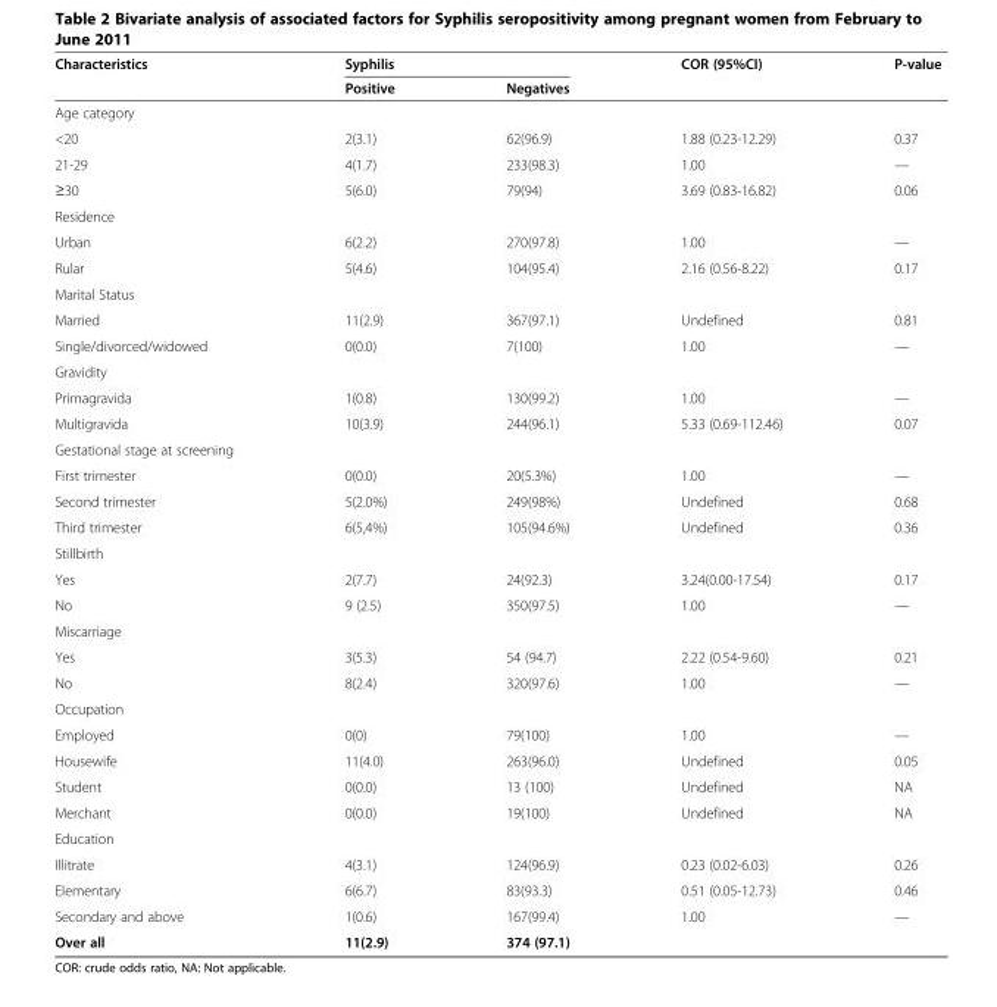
<table><thead><tr><td rowspan="2">Characteristics</td><td colspan="2">Syphilis</td><td rowspan="2">COR (95%CI)</td><td rowspan="2">P-value</td></tr><tr><td>Positive</td><td>Negatives</td></tr></thead><tbody><tr><td colspan="5">Age category</td></tr><tr><td>&lt;20</td><td>2(3.1)</td><td>62(96.9)</td><td>1.88 (0.23-12.29)</td><td>0.37</td></tr><tr><td>21-29</td><td>4(1.7)</td><td>233(98.3)</td><td>1.00</td><td>—</td></tr><tr><td>≥30</td><td>5(6.0)</td><td>79(94)</td><td>3.69 (0.83-16.82)</td><td>0.06</td></tr><tr><td colspan="5">Residence</td></tr><tr><td>Urban</td><td>6(2.2)</td><td>270(97.8)</td><td>1.00</td><td>—</td></tr><tr><td>Rular</td><td>5(4.6)</td><td>104(95.4)</td><td>2.16 (0.56-8.22)</td><td>0.17</td></tr><tr><td colspan="5">Marital Status</td></tr><tr><td>Married</td><td>11(2.9)</td><td>367(97.1)</td><td>Undefined</td><td>0.81</td></tr><tr><td>Single/divorced/widowed</td><td>0(0.0)</td><td>7(100)</td><td>1.00</td><td>—</td></tr><tr><td colspan="5">Gravidity</td></tr><tr><td>Primagravida</td><td>1(0.8)</td><td>130(99.2)</td><td>1.00</td><td>—</td></tr><tr><td>Multigravida</td><td>10(3.9)</td><td>244(96.1)</td><td>5.33 (0.69-112.46)</td><td>0.07</td></tr><tr><td colspan="5">Gestational stage at screening</td></tr><tr><td>First trimester</td><td>0(0.0)</td><td>20(5.3%)</td><td>1.00</td><td>—</td></tr><tr><td>Second trimester</td><td>5(2.0%)</td><td>249(98%)</td><td>Undefined</td><td>0.68</td></tr><tr><td>Third trimester</td><td>6(5,4%)</td><td>105(94.6%)</td><td>Undefined</td><td>0.36</td></tr><tr><td colspan="5">Stillbirth</td></tr><tr><td>Yes</td><td>2(7.7)</td><td>24(92.3)</td><td>3.24(0.00-17.54)</td><td>0.17</td></tr><tr><td>No</td><td>9 (2.5)</td><td>350(97.5)</td><td>1.00</td><td>—</td></tr><tr><td colspan="5">Miscarriage</td></tr><tr><td>Yes</td><td>3(5.3)</td><td>54 (94.7)</td><td>2.22 (0.54-9.60)</td><td>0.21</td></tr><tr><td>No</td><td>8(2.4)</td><td>320(97.6)</td><td>1.00</td><td>—</td></tr><tr><td colspan="5">Occupation</td></tr><tr><td>Employed</td><td>0(0)</td><td>79(100)</td><td>1.00</td><td>—</td></tr><tr><td>Housewife</td><td>11(4.0)</td><td>263(96.0)</td><td>Undefined</td><td>0.05</td></tr><tr><td>Student</td><td>0(0.0)</td><td>13 (100)</td><td>Undefined</td><td>NA</td></tr><tr><td>Merchant</td><td>0(0.0)</td><td>19(100)</td><td>Undefined</td><td>NA</td></tr><tr><td colspan="5">Education</td></tr><tr><td>Illitrate</td><td>4(3.1)</td><td>124(96.9)</td><td>0.23 (0.02-6.03)</td><td>0.26</td></tr><tr><td>Elementary</td><td>6(6.7)</td><td>83(93.3)</td><td>0.51 (0.05-12.73)</td><td>0.46</td></tr><tr><td>Secondary and above</td><td>1(0.6)</td><td>167(99.4)</td><td>1.00</td><td>—</td></tr><tr><td>Over all</td><td>11(2.9)</td><td>374 (97.1)</td><td></td><td></td></tr></tbody></table>